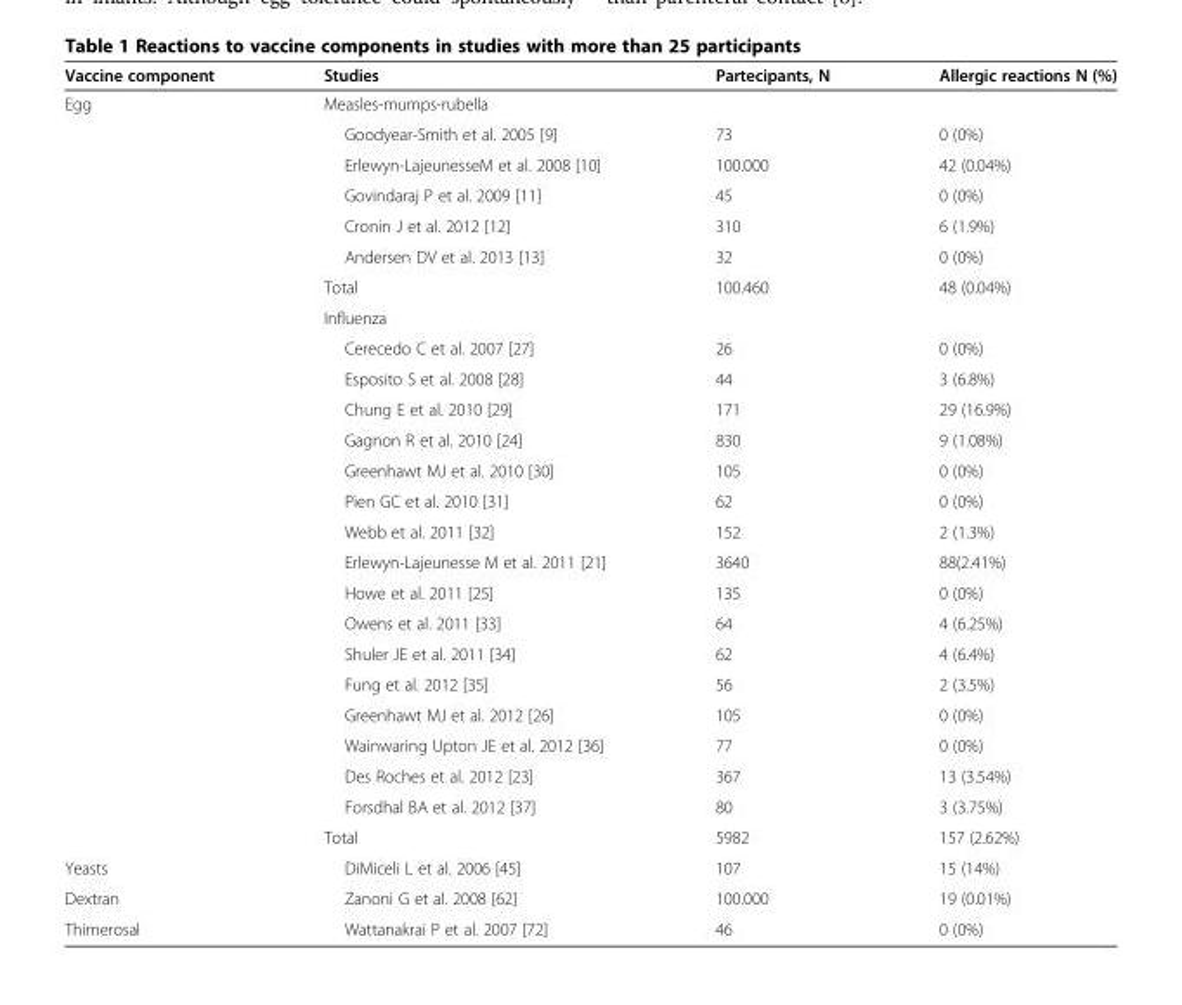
<table><thead><tr><td>Vaccine component</td><td>Studies</td><td>Partecipants, N</td><td>Allergic reactions N (%)</td></tr></thead><tbody><tr><td rowspan="25">Egg</td><td>Measles-mumps-rubella</td><td></td><td></td></tr><tr><td>Goodyear-Smith et al. 2005 [9]</td><td>73</td><td>0 (0%)</td></tr><tr><td>Erlewyn-LajeunesseM et al. 2008 [10]</td><td>100.000</td><td>42 (0.04%)</td></tr><tr><td>Govindaraj P et al. 2009 [11]</td><td>45</td><td>0 (0%)</td></tr><tr><td>Cronin J et al. 2012 [12]</td><td>310</td><td>6 (1.9%)</td></tr><tr><td>Andersen DV et al. 2013 [13]</td><td>32</td><td>0 (0%)</td></tr><tr><td>Total</td><td>100.460</td><td>48 (0.04%)</td></tr><tr><td>Influenza</td><td></td><td></td></tr><tr><td>Cerecedo C et al. 2007 [27]</td><td>26</td><td>0 (0%)</td></tr><tr><td>Esposito S et al. 2008 [28]</td><td>44</td><td>3 (6.8%)</td></tr><tr><td>Chung E et al. 2010 [29]</td><td>171</td><td>29 (16.9%)</td></tr><tr><td>Gagnon R et al. 2010 [24]</td><td>830</td><td>9 (1.08%)</td></tr><tr><td>Greenhawt MJ et al. 2010 [30]</td><td>105</td><td>0 (0%)</td></tr><tr><td>Pien GC et al. 2010 [31]</td><td>62</td><td>0 (0%)</td></tr><tr><td>Webb et al. 2011 [32]</td><td>152</td><td>2 (1.3%)</td></tr><tr><td>Erlewyn-Lajeunesse M et al. 2011 [21]</td><td>3640</td><td>88(2.41%)</td></tr><tr><td>Howe et al. 2011 [25]</td><td>135</td><td>0 (0%)</td></tr><tr><td>Owens et al. 2011 [33]</td><td>64</td><td>4 (6.25%)</td></tr><tr><td>Shuler JE et al. 2011 [34]</td><td>62</td><td>4 (6.4%)</td></tr><tr><td>Fung et al. 2012 [35]</td><td>56</td><td>2 (3.5%)</td></tr><tr><td>Greenhawt MJ et al. 2012 [26]</td><td>105</td><td>0 (0%)</td></tr><tr><td>Wainwaring Upton JE et al. 2012 [36]</td><td>77</td><td>0 (0%)</td></tr><tr><td>Des Roches et al. 2012 [23]</td><td>367</td><td>13 (3.54%)</td></tr><tr><td>Forsdhal BA et al. 2012 [37]</td><td>80</td><td>3 (3.75%)</td></tr><tr><td>Total</td><td>5982</td><td>157 (2.62%)</td></tr><tr><td>Yeasts</td><td>DiMiceli L et al. 2006 [45]</td><td>107</td><td>15 (14%)</td></tr><tr><td>Dextran</td><td>Zanoni G et al. 2008 [62]</td><td>100.000</td><td>19 (0.01%)</td></tr><tr><td>Thimerosal</td><td>Wattanakrai P et al. 2007 [72]</td><td>46</td><td>0 (0%)</td></tr></tbody></table>